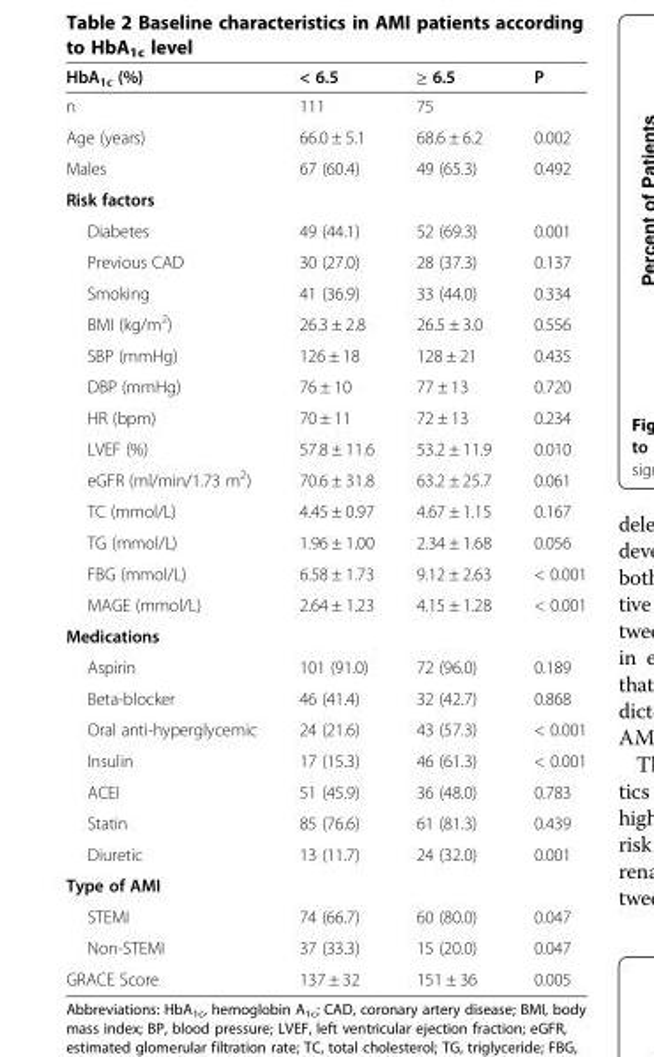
<table><thead><tr><td>HbA<sub>1c</sub> (%)</td><td>&lt; 6.5</td><td>≥ 6.5</td><td>P</td></tr></thead><tbody><tr><td>n</td><td>111</td><td>75</td><td></td></tr><tr><td>Age (years)</td><td>66.0 ± 5.1</td><td>68.6 ± 6.2</td><td>0.002</td></tr><tr><td>Males</td><td>67 (60.4)</td><td>49 (65.3)</td><td>0.492</td></tr><tr><td colspan="4">Risk factors</td></tr><tr><td>Diabetes</td><td>49 (44.1)</td><td>52 (69.3)</td><td>0.001</td></tr><tr><td>Previous CAD</td><td>30 (27.0)</td><td>28 (37.3)</td><td>0.137</td></tr><tr><td>Smoking</td><td>41 (36.9)</td><td>33 (44.0)</td><td>0.334</td></tr><tr><td>BMI (kg/m<sup>2</sup>)</td><td>26.3 ± 2.8</td><td>26.5 ± 3.0</td><td>0.556</td></tr><tr><td>SBP (mmHg)</td><td>126 ± 18</td><td>128 ± 21</td><td>0.435</td></tr><tr><td>DBP (mmHg)</td><td>76 ± 10</td><td>77 ± 13</td><td>0.720</td></tr><tr><td>HR (bpm)</td><td>70 ± 11</td><td>72 ± 13</td><td>0.234</td></tr><tr><td>LVEF (%)</td><td>57.8 ± 11.6</td><td>53.2 ± 11.9</td><td>0.010</td></tr><tr><td>eGFR (ml/min/1.73 m<sup>2</sup>)</td><td>70.6 ± 31.8</td><td>63.2 ± 25.7</td><td>0.061</td></tr><tr><td>TC (mmol/L)</td><td>4.45 ± 0.97</td><td>4.67 ± 1.15</td><td>0.167</td></tr><tr><td>TG (mmol/L)</td><td>1.96 ± 1.00</td><td>2.34 ± 1.68</td><td>0.056</td></tr><tr><td>FBG (mmol/L)</td><td>6.58 ± 1.73</td><td>9.12 ± 2.63</td><td>&lt; 0.001</td></tr><tr><td>MAGE (mmol/L)</td><td>2.64 ± 1.23</td><td>4.15 ± 1.28</td><td>&lt; 0.001</td></tr><tr><td colspan="4">Medications</td></tr><tr><td>Aspirin</td><td>101 (91.0)</td><td>72 (96.0)</td><td>0.189</td></tr><tr><td>Beta-blocker</td><td>46 (41.4)</td><td>32 (42.7)</td><td>0.868</td></tr><tr><td>Oral anti-hyperglycemic</td><td>24 (21.6)</td><td>43 (57.3)</td><td>&lt; 0.001</td></tr><tr><td>Insulin</td><td>17 (15.3)</td><td>46 (61.3)</td><td>&lt; 0.001</td></tr><tr><td>ACEI</td><td>51 (45.9)</td><td>36 (48.0)</td><td>0.783</td></tr><tr><td>Statin</td><td>85 (76.6)</td><td>61 (81.3)</td><td>0.439</td></tr><tr><td>Diuretic</td><td>13 (11.7)</td><td>24 (32.0)</td><td>0.001</td></tr><tr><td colspan="4">Type of AMI</td></tr><tr><td>STEMI</td><td>74 (66.7)</td><td>60 (80.0)</td><td>0.047</td></tr><tr><td>Non-STEMI</td><td>37 (33.3)</td><td>15 (20.0)</td><td>0.047</td></tr><tr><td>GRACE Score</td><td>137 ± 32</td><td>151 ± 36</td><td>0.005</td></tr></tbody></table>